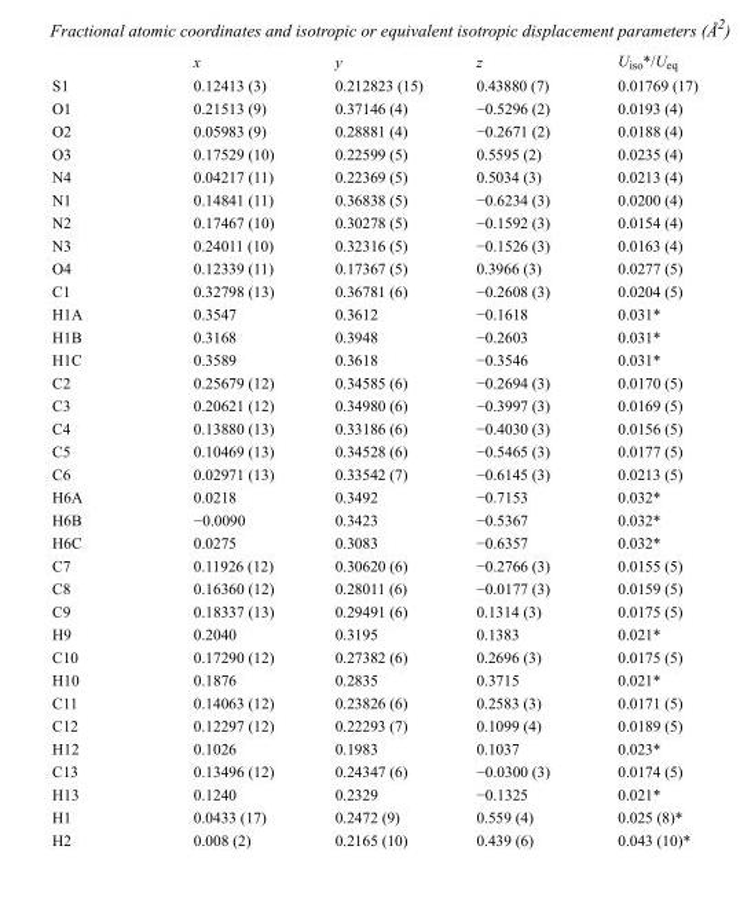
<table><thead><tr><td></td><td>x</td><td>y</td><td>z</td><td>U<sub>iso</sub>*/U<sub>eq</sub></td></tr></thead><tbody><tr><td>S1</td><td>0.12413 (3)</td><td>0.212823 (15)</td><td>0.43880 (7)</td><td>0.01769 (17)</td></tr><tr><td>O1</td><td>0.21513 (9)</td><td>0.37146 (4)</td><td>−0.5296 (2)</td><td>0.0193 (4)</td></tr><tr><td>O2</td><td>0.05983 (9)</td><td>0.28881 (4)</td><td>−0.2671 (2)</td><td>0.0188 (4)</td></tr><tr><td>O3</td><td>0.17529 (10)</td><td>0.22599 (5)</td><td>0.5595 (2)</td><td>0.0235 (4)</td></tr><tr><td>N4</td><td>0.04217 (11)</td><td>0.22369 (5)</td><td>0.5034 (3)</td><td>0.0213 (4)</td></tr><tr><td>N1</td><td>0.14841 (11)</td><td>0.36838 (5)</td><td>−0.6234 (3)</td><td>0.0200 (4)</td></tr><tr><td>N2</td><td>0.17467 (10)</td><td>0.30278 (5)</td><td>−0.1592 (3)</td><td>0.0154 (4)</td></tr><tr><td>N3</td><td>0.24011 (10)</td><td>0.32316 (5)</td><td>−0.1526 (3)</td><td>0.0163 (4)</td></tr><tr><td>O4</td><td>0.12339 (11)</td><td>0.17367 (5)</td><td>0.3966 (3)</td><td>0.0277 (5)</td></tr><tr><td>C1</td><td>0.32798 (13)</td><td>0.36781 (6)</td><td>−0.2608 (3)</td><td>0.0204 (5)</td></tr><tr><td>H1A</td><td>0.3547</td><td>0.3612</td><td>−0.1618</td><td>0.031*</td></tr><tr><td>H1B</td><td>0.3168</td><td>0.3948</td><td>−0.2603</td><td>0.031*</td></tr><tr><td>H1C</td><td>0.3589</td><td>0.3618</td><td>−0.3546</td><td>0.031*</td></tr><tr><td>C2</td><td>0.25679 (12)</td><td>0.34585 (6)</td><td>−0.2694 (3)</td><td>0.0170 (5)</td></tr><tr><td>C3</td><td>0.20621 (12)</td><td>0.34980 (6)</td><td>−0.3997 (3)</td><td>0.0169 (5)</td></tr><tr><td>C4</td><td>0.13880 (13)</td><td>0.33186 (6)</td><td>−0.4030 (3)</td><td>0.0156 (5)</td></tr><tr><td>C5</td><td>0.10469 (13)</td><td>0.34528 (6)</td><td>−0.5465 (3)</td><td>0.0177 (5)</td></tr><tr><td>C6</td><td>0.02971 (13)</td><td>0.33542 (7)</td><td>−0.6145 (3)</td><td>0.0213 (5)</td></tr><tr><td>H6A</td><td>0.0218</td><td>0.3492</td><td>−0.7153</td><td>0.032*</td></tr><tr><td>H6B</td><td>−0.0090</td><td>0.3423</td><td>−0.5367</td><td>0.032*</td></tr><tr><td>H6C</td><td>0.0275</td><td>0.3083</td><td>−0.6357</td><td>0.032*</td></tr><tr><td>C7</td><td>0.11926 (12)</td><td>0.30620 (6)</td><td>−0.2766 (3)</td><td>0.0155 (5)</td></tr><tr><td>C8</td><td>0.16360 (12)</td><td>0.28011 (6)</td><td>−0.0177 (3)</td><td>0.0159 (5)</td></tr><tr><td>C9</td><td>0.18337 (13)</td><td>0.29491 (6)</td><td>0.1314 (3)</td><td>0.0175 (5)</td></tr><tr><td>H9</td><td>0.2040</td><td>0.3195</td><td>0.1383</td><td>0.021*</td></tr><tr><td>C10</td><td>0.17290 (12)</td><td>0.27382 (6)</td><td>0.2696 (3)</td><td>0.0175 (5)</td></tr><tr><td>H10</td><td>0.1876</td><td>0.2835</td><td>0.3715</td><td>0.021*</td></tr><tr><td>C11</td><td>0.14063 (12)</td><td>0.23826 (6)</td><td>0.2583 (3)</td><td>0.0171 (5)</td></tr><tr><td>C12</td><td>0.12297 (12)</td><td>0.22293 (7)</td><td>0.1099 (4)</td><td>0.0189 (5)</td></tr><tr><td>H12</td><td>0.1026</td><td>0.1983</td><td>0.1037</td><td>0.023*</td></tr><tr><td>C13</td><td>0.13496 (12)</td><td>0.24347 (6)</td><td>−0.0300 (3)</td><td>0.0174 (5)</td></tr><tr><td>H13</td><td>0.1240</td><td>0.2329</td><td>−0.1325</td><td>0.021*</td></tr><tr><td>H1</td><td>0.0433 (17)</td><td>0.2472 (9)</td><td>0.559 (4)</td><td>0.025 (8)*</td></tr><tr><td>H2</td><td>0.008 (2)</td><td>0.2165 (10)</td><td>0.439 (6)</td><td>0.043 (10)*</td></tr></tbody></table>